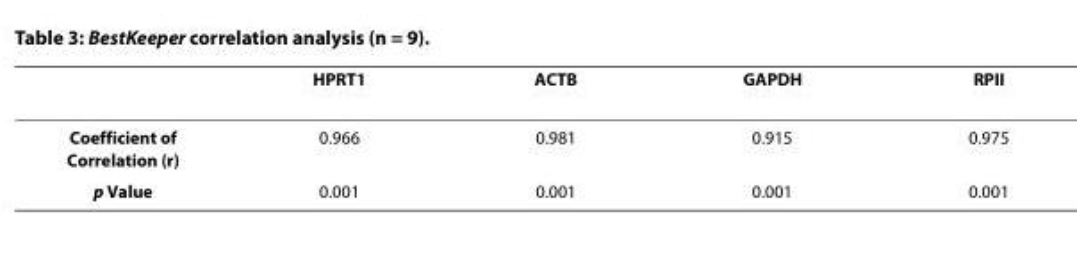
<table><thead><tr><td></td><td>HPRT1</td><td>ACTB</td><td>GAPDH</td><td>RPII</td></tr></thead><tbody><tr><td>Coefficient of Correlation (r)</td><td>0.966</td><td>0.981</td><td>0.915</td><td>0.975</td></tr><tr><td>p Value</td><td>0.001</td><td>0.001</td><td>0.001</td><td>0.001</td></tr></tbody></table>